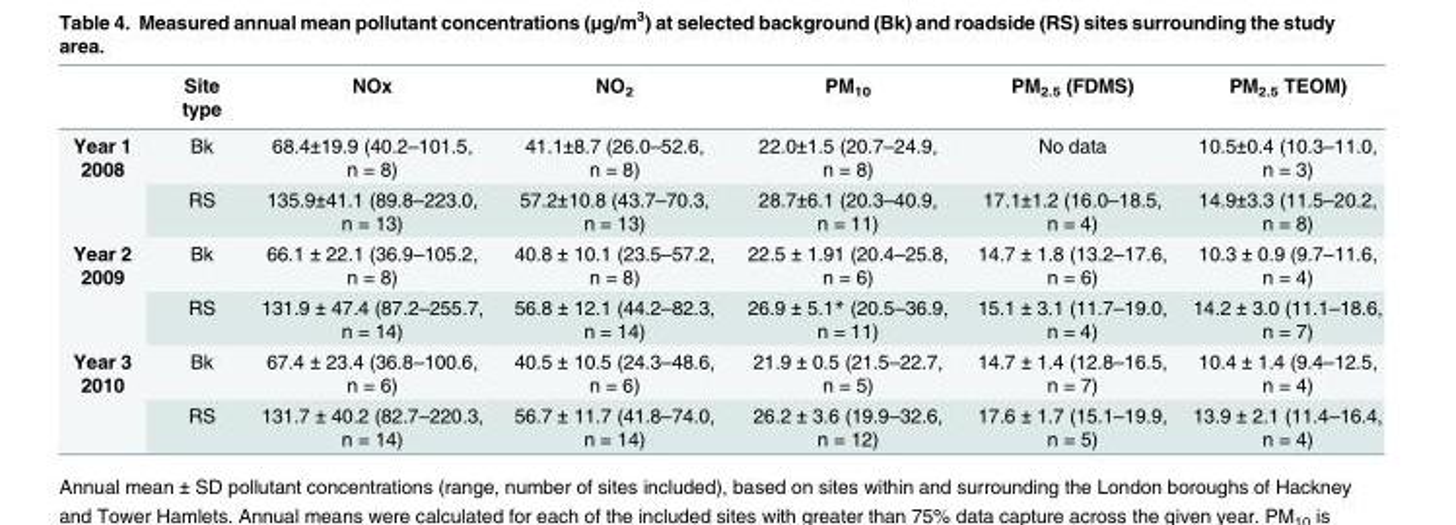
<table><thead><tr><td></td><td>Site type</td><td>NOx</td><td>NO<sub>2</sub></td><td>PM<sub>10</sub></td><td>PM<sub>2.5</sub> (FDMS)</td><td>PM<sub>2.5</sub> TEOM)</td></tr></thead><tbody><tr><td rowspan="2">Year 1 2008</td><td>Bk</td><td>68.4±19.9 (40.2–101.5, n = 8)</td><td>41.1±8.7 (26.0–52.6, n = 8)</td><td>22.0±1.5 (20.7–24.9, n = 8)</td><td>No data</td><td>10.5±0.4 (10.3–11.0, n = 3)</td></tr><tr><td>RS</td><td>135.9±41.1 (89.8–223.0, n = 13)</td><td>57.2±10.8 (43.7–70.3, n = 13)</td><td>28.7±6.1 (20.3–40.9, n = 11)</td><td>17.1±1.2 (16.0–18.5, n = 4)</td><td>14.9±3.3 (11.5–20.2, n = 8)</td></tr><tr><td rowspan="2">Year 2 2009</td><td>Bk</td><td>66.1 ± 22.1 (36.9–105.2, n = 8)</td><td>40.8 ± 10.1 (23.5–57.2, n = 8)</td><td>22.5 ± 1.91 (20.4–25.8, n = 6)</td><td>14.7 ± 1.8 (13.2–17.6, n = 6)</td><td>10.3 ± 0.9 (9.7–11.6, n = 4)</td></tr><tr><td>RS</td><td>131.9 ± 47.4 (87.2–255.7, n = 14)</td><td>56.8 ± 12.1 (44.2–82.3, n = 14)</td><td>26.9 ± 5.1* (20.5–36.9, n = 11)</td><td>15.1 ± 3.1 (11.7–19.0, n = 4)</td><td>14.2 ± 3.0 (11.1–18.6, n = 7)</td></tr><tr><td rowspan="2">Year 3 2010</td><td>Bk</td><td>67.4 ± 23.4 (36.8–100.6, n = 6)</td><td>40.5 ± 10.5 (24.3–48.6, n = 6)</td><td>21.9 ± 0.5 (21.5–22.7, n = 5)</td><td>14.7 ± 1.4 (12.8–16.5, n = 7)</td><td>10.4 ± 1.4 (9.4–12.5, n = 4)</td></tr><tr><td>RS</td><td>131.7 ± 40.2 (82.7–220.3, n = 14)</td><td>56.7 ± 11.7 (41.8–74.0, n = 14)</td><td>26.2 ± 3.6 (19.9–32.6, n = 12)</td><td>17.6 ± 1.7 (15.1–19.9, n = 5)</td><td>13.9 ± 2.1 (11.4–16.4, n = 4)</td></tr></tbody></table>